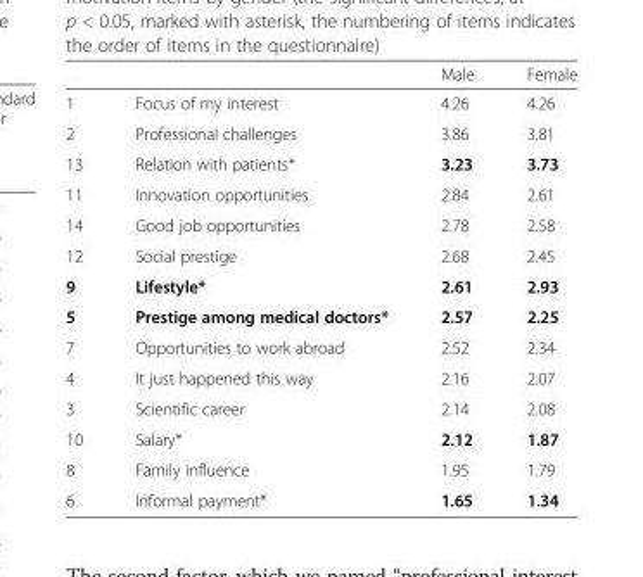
<table><thead><tr><td></td><td></td><td>Male</td><td>Female</td></tr></thead><tbody><tr><td>1</td><td>Focus of my interest</td><td>4.26</td><td>4.26</td></tr><tr><td>2</td><td>Professional challenges</td><td>3.86</td><td>3.81</td></tr><tr><td>13</td><td>Relation with patients*</td><td>3.23</td><td>3.73</td></tr><tr><td>11</td><td>Innovation opportunities</td><td>2.84</td><td>2.61</td></tr><tr><td>14</td><td>Good job opportunities</td><td>2.78</td><td>2.58</td></tr><tr><td>12</td><td>Social prestige</td><td>2.68</td><td>2.45</td></tr><tr><td>9</td><td>Lifestyle*</td><td>2.61</td><td>2.93</td></tr><tr><td>5</td><td>Prestige among medical doctors*</td><td>2.57</td><td>2.25</td></tr><tr><td>7</td><td>Opportunities to work abroad</td><td>2.52</td><td>2.34</td></tr><tr><td>4</td><td>It just happened this way</td><td>2.16</td><td>2.07</td></tr><tr><td>3</td><td>Scientific career</td><td>2.14</td><td>2.08</td></tr><tr><td>10</td><td>Salary*</td><td>2.12</td><td>1.87</td></tr><tr><td>8</td><td>Family influence</td><td>1.95</td><td>1.79</td></tr><tr><td>6</td><td>Informal payment*</td><td>1.65</td><td>1.34</td></tr></tbody></table>